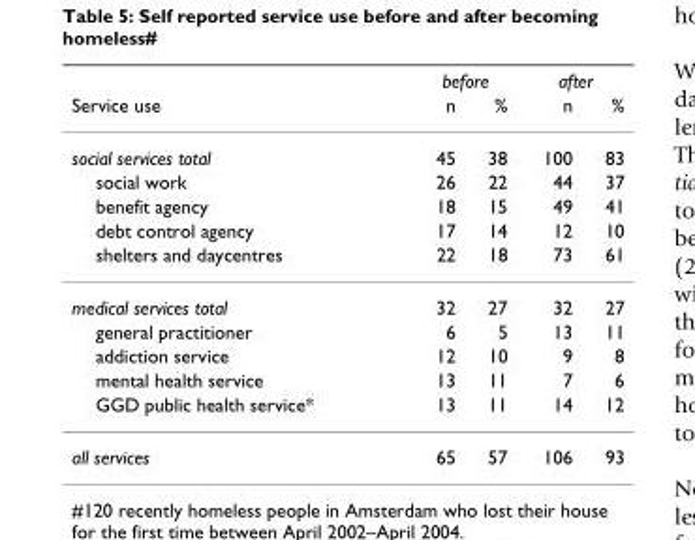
<table><thead><tr><td rowspan="2">Service use</td><td colspan="2">before</td><td colspan="2">after</td></tr><tr><td>n</td><td>%</td><td>n</td><td>%</td></tr></thead><tbody><tr><td>social services total</td><td>45</td><td>38</td><td>100</td><td>83</td></tr><tr><td>social work</td><td>26</td><td>22</td><td>44</td><td>37</td></tr><tr><td>benefit agency</td><td>18</td><td>15</td><td>49</td><td>41</td></tr><tr><td>debt control agency</td><td>17</td><td>14</td><td>12</td><td>10</td></tr><tr><td>shelters and daycentres</td><td>22</td><td>18</td><td>73</td><td>61</td></tr><tr><td>medical services total</td><td>32</td><td>27</td><td>32</td><td>27</td></tr><tr><td>general practitioner</td><td>6</td><td>5</td><td>13</td><td>11</td></tr><tr><td>addiction service</td><td>12</td><td>10</td><td>9</td><td>8</td></tr><tr><td>mental health service</td><td>13</td><td>11</td><td>7</td><td>6</td></tr><tr><td>GGD public health service*</td><td>13</td><td>11</td><td>14</td><td>12</td></tr><tr><td>all services</td><td>65</td><td>57</td><td>106</td><td>93</td></tr></tbody></table>